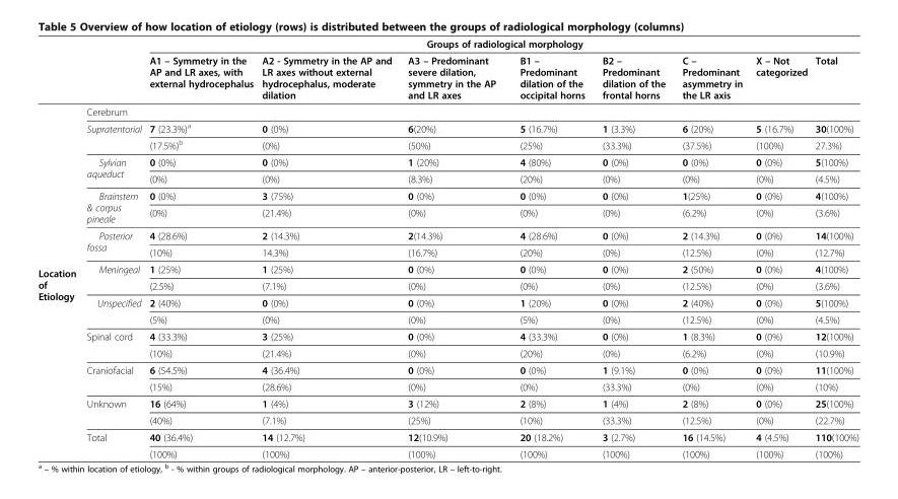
<table><thead><tr><td rowspan="2"></td><td rowspan="2"></td><td colspan="8">Groups of radiological morphology</td></tr><tr><td>A1 – Symmetry in the AP and LR axes, with external hydrocephalus</td><td>A2 - Symmetry in the AP and LR axes without external hydrocephalus, moderate dilation</td><td>A3 – Predominant severe dilation, symmetry in the AP and LR axes</td><td>B1 – Predominant dilation of the occipital horns</td><td>B2 – Predominant dilation of the frontal horns</td><td>C – Predominant asymmetry in the LR axis</td><td>X – Not categorized</td><td>Total</td></tr></thead><tbody><tr><td rowspan="21">Location of Etiology</td><td colspan="9">Cerebrum</td></tr><tr><td rowspan="2">Supratentorial</td><td>7 (23.3%)<sup>a</sup></td><td>0 (0%)</td><td>6(20%)</td><td>5 (16.7%)</td><td>1 (3.3%)</td><td>6 (20%)</td><td>5 (16.7%)</td><td>30(100%)</td></tr><tr><td>(17.5%)<sup>b</sup></td><td>(0%)</td><td>(50%)</td><td>(25%)</td><td>(33.3%)</td><td>(37.5%)</td><td>(100%)</td><td>27.3%)</td></tr><tr><td rowspan="2">Sylvian aqueduct</td><td>0 (0%)</td><td>0 (0%)</td><td>1 (20%)</td><td>4 (80%)</td><td>0 (0%)</td><td>0 (0%)</td><td>0 (0%)</td><td>5(100%)</td></tr><tr><td>(0%)</td><td>(0%)</td><td>(8.3%)</td><td>(20%)</td><td>(0%)</td><td>(0%)</td><td>(0%)</td><td>(4.5%)</td></tr><tr><td rowspan="2">Brainstem &amp; corpus pineale</td><td>0 (0%)</td><td>3 (75%)</td><td>0 (0%)</td><td>0 (0%)</td><td>0 (0%)</td><td>1(25%)</td><td>0 (0%)</td><td>4(100%)</td></tr><tr><td>(0%)</td><td>(21.4%)</td><td>(0%)</td><td>(0%)</td><td>(0%)</td><td>(6.2%)</td><td>(0%)</td><td>(3.6%)</td></tr><tr><td rowspan="2">Posterior fossa</td><td>4 (28.6%)</td><td>2 (14.3%)</td><td>2(14.3%)</td><td>4 (28.6%)</td><td>0 (0%)</td><td>2 (14.3%)</td><td>0 (0%)</td><td>14(100%)</td></tr><tr><td>(10%)</td><td>14.3%)</td><td>(16.7%)</td><td>(20%)</td><td>(0%)</td><td>(12.5%)</td><td>(0%)</td><td>(12.7%)</td></tr><tr><td rowspan="2">Meningeal</td><td>1 (25%)</td><td>1 (25%)</td><td>0 (0%)</td><td>0 (0%)</td><td>0 (0%)</td><td>2 (50%)</td><td>0 (0%)</td><td>4(100%)</td></tr><tr><td>(2.5%)</td><td>(7.1%)</td><td>(0%)</td><td>(0%)</td><td>(0%)</td><td>(12.5%)</td><td>(0%)</td><td>(3.6%)</td></tr><tr><td rowspan="2">Unspecified</td><td>2 (40%)</td><td>0 (0%)</td><td>0 (0%)</td><td>1 (20%)</td><td>0 (0%)</td><td>2 (40%)</td><td>0 (0%)</td><td>5(100%)</td></tr><tr><td>(5%)</td><td>(0%)</td><td>(0%)</td><td>(5%)</td><td>(0%)</td><td>(12.5%)</td><td>(0%)</td><td>(4.5%)</td></tr><tr><td rowspan="2">Spinal cord</td><td>4 (33.3%)</td><td>3 (25%)</td><td>0 (0%)</td><td>4 (33.3%)</td><td>0 (0%)</td><td>1 (8.3%)</td><td>0 (0%)</td><td>12(100%)</td></tr><tr><td>(10%)</td><td>(21.4%)</td><td>(0%)</td><td>(20%)</td><td>(0%)</td><td>(6.2%)</td><td>(0%)</td><td>(10.9%)</td></tr><tr><td rowspan="2">Craniofacial</td><td>6 (54.5%)</td><td>4 (36.4%)</td><td>0 (0%)</td><td>0 (0%)</td><td>1 (9.1%)</td><td>0 (0%)</td><td>0 (0%)</td><td>11(100%)</td></tr><tr><td>(15%)</td><td>(28.6%)</td><td>(0%)</td><td>(0%)</td><td>(33.3%)</td><td>(0%)</td><td>(0%)</td><td>(10%)</td></tr><tr><td rowspan="2">Unknown</td><td>16 (64%)</td><td>1 (4%)</td><td>3 (12%)</td><td>2 (8%)</td><td>1 (4%)</td><td>2 (8%)</td><td>0 (0%)</td><td>25(100%)</td></tr><tr><td>(40%)</td><td>(7.1%)</td><td>(25%)</td><td>(10%)</td><td>(33.3%)</td><td>(12.5%)</td><td>(0%)</td><td>(22.7%)</td></tr><tr><td>Total</td><td>40 (36.4%)</td><td>14 (12.7%)</td><td>12(10.9%)</td><td>20 (18.2%)</td><td>3 (2.7%)</td><td>16 (14.5%)</td><td>4 (4.5%)</td><td>110(100%)</td></tr><tr><td></td><td>(100%)</td><td>(100%)</td><td>(100%)</td><td>(100%)</td><td>(100%)</td><td>(100%)</td><td>(100%)</td><td>(100%)</td></tr></tbody></table>